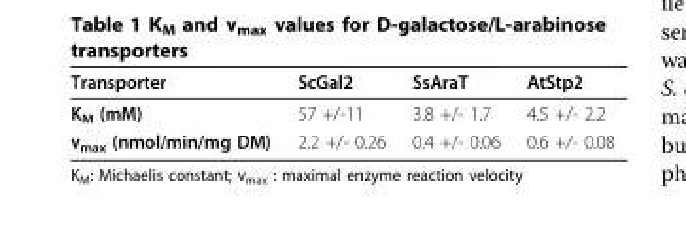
<table><thead><tr><td>Transporter</td><td>ScGal2</td><td>SsAraT</td><td>AtStp2</td></tr></thead><tbody><tr><td>K<sub>M</sub> (mM)</td><td>57 +/-11</td><td>3.8 +/- 1.7</td><td>4.5 +/- 2.2</td></tr><tr><td>v<sub>max</sub> (nmol/min/mg DM)</td><td>2.2 +/- 0.26</td><td>0.4 +/- 0.06</td><td>0.6 +/- 0.08</td></tr></tbody></table>